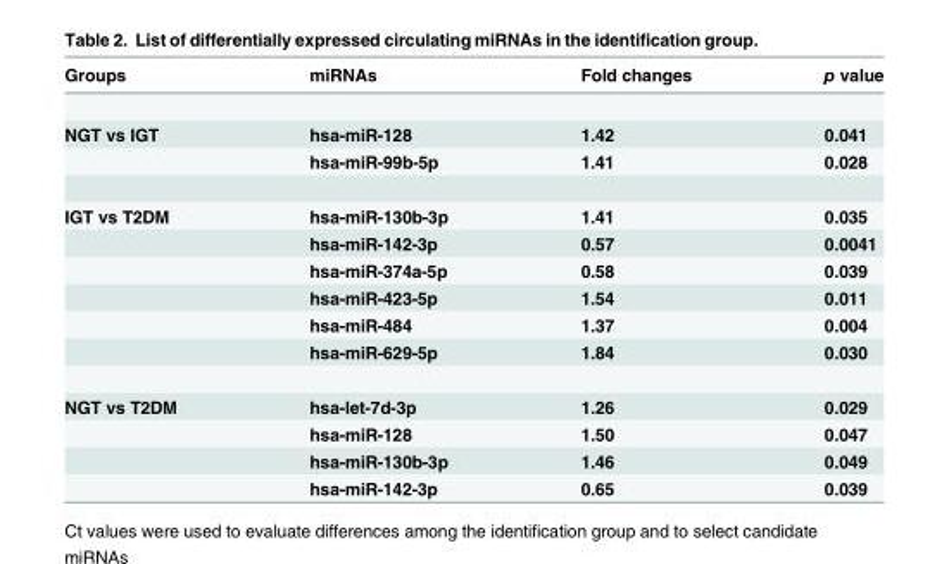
<table><thead><tr><td>Groups</td><td>miRNAs</td><td>Fold changes</td><td>p value</td></tr></thead><tbody><tr><td rowspan="2">NGT vs IGT</td><td>hsa-miR-128</td><td>1.42</td><td>0.041</td></tr><tr><td>hsa-miR-99b-5p</td><td>1.41</td><td>0.028</td></tr><tr><td rowspan="6">IGT vs T2DM</td><td>hsa-miR-130b-3p</td><td>1.41</td><td>0.035</td></tr><tr><td>hsa-miR-142-3p</td><td>0.57</td><td>0.0041</td></tr><tr><td>hsa-miR-374a-5p</td><td>0.58</td><td>0.039</td></tr><tr><td>hsa-miR-423-5p</td><td>1.54</td><td>0.011</td></tr><tr><td>hsa-miR-484</td><td>1.37</td><td>0.004</td></tr><tr><td>hsa-miR-629-5p</td><td>1.84</td><td>0.030</td></tr><tr><td rowspan="4">NGT vs T2DM</td><td>hsa-let-7d-3p</td><td>1.26</td><td>0.029</td></tr><tr><td>hsa-miR-128</td><td>1.50</td><td>0.047</td></tr><tr><td>hsa-miR-130b-3p</td><td>1.46</td><td>0.049</td></tr><tr><td>hsa-miR-142-3p</td><td>0.65</td><td>0.039</td></tr></tbody></table>